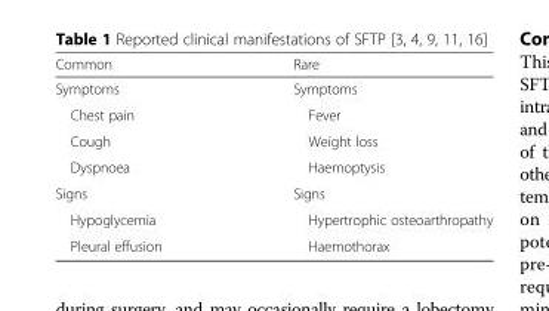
<table><thead><tr><td>Common</td><td>Rare</td></tr></thead><tbody><tr><td>Symptoms</td><td>Symptoms</td></tr><tr><td>Chest pain</td><td>Fever</td></tr><tr><td>Cough</td><td>Weight loss</td></tr><tr><td>Dyspnoea</td><td>Haemoptysis</td></tr><tr><td>Signs</td><td>Signs</td></tr><tr><td>Hypoglycemia</td><td>Hypertrophic osteoarthropathy</td></tr><tr><td>Pleural effusion</td><td>Haemothorax</td></tr></tbody></table>